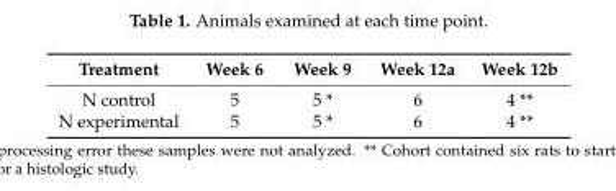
<table><thead><tr><td>Treatment</td><td>Week 6</td><td>Week 9</td><td>Week 12a</td><td>Week 12b</td></tr></thead><tbody><tr><td>N control</td><td>5</td><td>5 *</td><td>6</td><td>4 **</td></tr><tr><td>N experimental</td><td>5</td><td>5 *</td><td>6</td><td>4 **</td></tr></tbody></table>